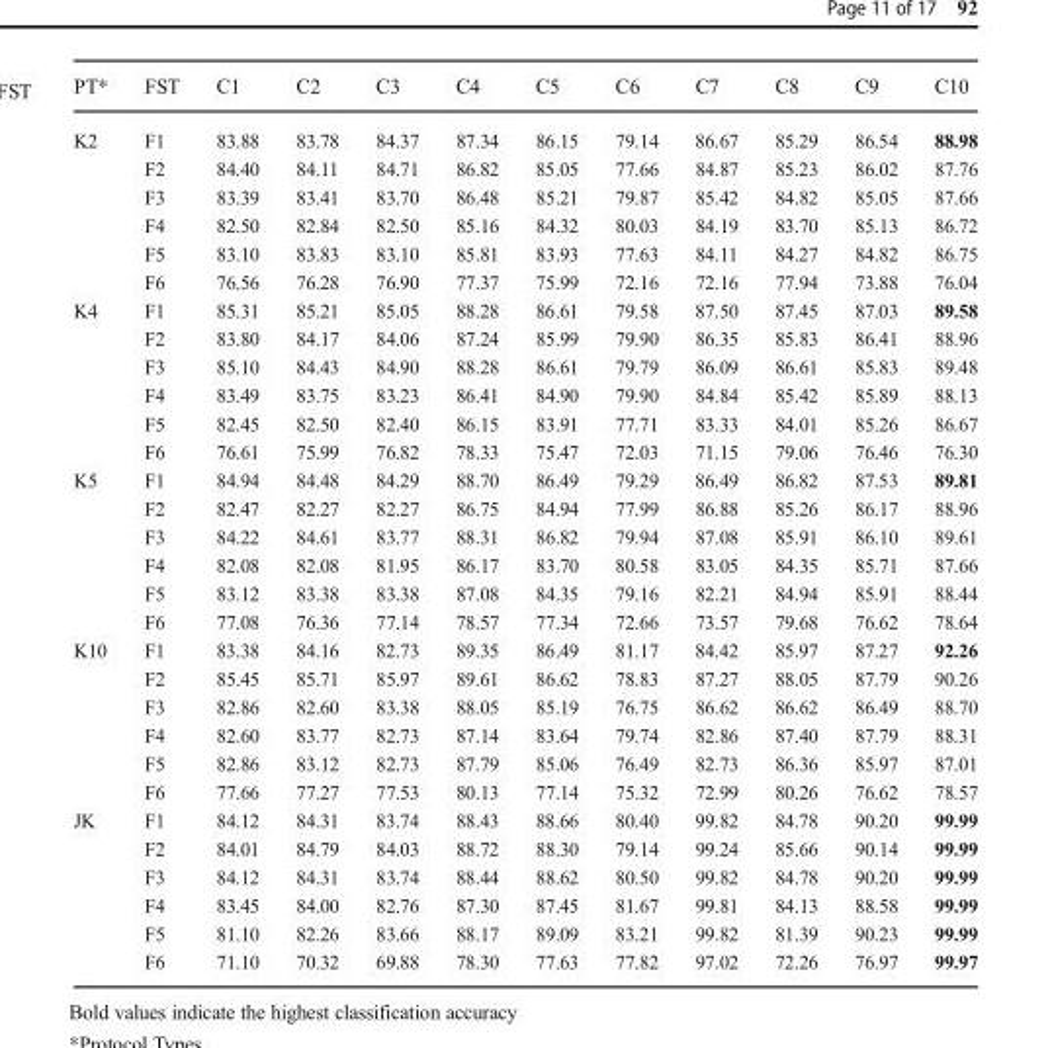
<table><thead><tr><td>PT*</td><td>FST</td><td>C1</td><td>C2</td><td>C3</td><td>C4</td><td>C5</td><td>C6</td><td>C7</td><td>C8</td><td>C9</td><td>C10</td></tr></thead><tbody><tr><td rowspan="6">K2</td><td>F1</td><td>83.88</td><td>83.78</td><td>84.37</td><td>87.34</td><td>86.15</td><td>79.14</td><td>86.67</td><td>85.29</td><td>86.54</td><td>88.98</td></tr><tr><td>F2</td><td>84.40</td><td>84.11</td><td>84.71</td><td>86.82</td><td>85.05</td><td>77.66</td><td>84.87</td><td>85.23</td><td>86.02</td><td>87.76</td></tr><tr><td>F3</td><td>83.39</td><td>83.41</td><td>83.70</td><td>86.48</td><td>85.21</td><td>79.87</td><td>85.42</td><td>84.82</td><td>85.05</td><td>87.66</td></tr><tr><td>F4</td><td>82.50</td><td>82.84</td><td>82.50</td><td>85.16</td><td>84.32</td><td>80.03</td><td>84.19</td><td>83.70</td><td>85.13</td><td>86.72</td></tr><tr><td>F5</td><td>83.10</td><td>83.83</td><td>83.10</td><td>85.81</td><td>83.93</td><td>77.63</td><td>84.11</td><td>84.27</td><td>84.82</td><td>86.75</td></tr><tr><td>F6</td><td>76.56</td><td>76.28</td><td>76.90</td><td>77.37</td><td>75.99</td><td>72.16</td><td>72.16</td><td>77.94</td><td>73.88</td><td>76.04</td></tr><tr><td rowspan="6">K4</td><td>F1</td><td>85.31</td><td>85.21</td><td>85.05</td><td>88.28</td><td>86.61</td><td>79.58</td><td>87.50</td><td>87.45</td><td>87.03</td><td>89.58</td></tr><tr><td>F2</td><td>83.80</td><td>84.17</td><td>84.06</td><td>87.24</td><td>85.99</td><td>79.90</td><td>86.35</td><td>85.83</td><td>86.41</td><td>88.96</td></tr><tr><td>F3</td><td>85.10</td><td>84.43</td><td>84.90</td><td>88.28</td><td>86.61</td><td>79.79</td><td>86.09</td><td>86.61</td><td>85.83</td><td>89.48</td></tr><tr><td>F4</td><td>83.49</td><td>83.75</td><td>83.23</td><td>86.41</td><td>84.90</td><td>79.90</td><td>84.84</td><td>85.42</td><td>85.89</td><td>88.13</td></tr><tr><td>F5</td><td>82.45</td><td>82.50</td><td>82.40</td><td>86.15</td><td>83.91</td><td>77.71</td><td>83.33</td><td>84.01</td><td>85.26</td><td>86.67</td></tr><tr><td>F6</td><td>76.61</td><td>75.99</td><td>76.82</td><td>78.33</td><td>75.47</td><td>72.03</td><td>71.15</td><td>79.06</td><td>76.46</td><td>76.30</td></tr><tr><td rowspan="6">K5</td><td>F1</td><td>84.94</td><td>84.48</td><td>84.29</td><td>88.70</td><td>86.49</td><td>79.29</td><td>86.49</td><td>86.82</td><td>87.53</td><td>89.81</td></tr><tr><td>F2</td><td>82.47</td><td>82.27</td><td>82.27</td><td>86.75</td><td>84.94</td><td>77.99</td><td>86.88</td><td>85.26</td><td>86.17</td><td>88.96</td></tr><tr><td>F3</td><td>84.22</td><td>84.61</td><td>83.77</td><td>88.31</td><td>86.82</td><td>79.94</td><td>87.08</td><td>85.91</td><td>86.10</td><td>89.61</td></tr><tr><td>F4</td><td>82.08</td><td>82.08</td><td>81.95</td><td>86.17</td><td>83.70</td><td>80.58</td><td>83.05</td><td>84.35</td><td>85.71</td><td>87.66</td></tr><tr><td>F5</td><td>83.12</td><td>83.38</td><td>83.38</td><td>87.08</td><td>84.35</td><td>79.16</td><td>82.21</td><td>84.94</td><td>85.91</td><td>88.44</td></tr><tr><td>F6</td><td>77.08</td><td>76.36</td><td>77.14</td><td>78.57</td><td>77.34</td><td>72.66</td><td>73.57</td><td>79.68</td><td>76.62</td><td>78.64</td></tr><tr><td rowspan="6">K10</td><td>F1</td><td>83.38</td><td>84.16</td><td>82.73</td><td>89.35</td><td>86.49</td><td>81.17</td><td>84.42</td><td>85.97</td><td>87.27</td><td>92.26</td></tr><tr><td>F2</td><td>85.45</td><td>85.71</td><td>85.97</td><td>89.61</td><td>86.62</td><td>78.83</td><td>87.27</td><td>88.05</td><td>87.79</td><td>90.26</td></tr><tr><td>F3</td><td>82.86</td><td>82.60</td><td>83.38</td><td>88.05</td><td>85.19</td><td>76.75</td><td>86.62</td><td>86.62</td><td>86.49</td><td>88.70</td></tr><tr><td>F4</td><td>82.60</td><td>83.77</td><td>82.73</td><td>87.14</td><td>83.64</td><td>79.74</td><td>82.86</td><td>87.40</td><td>87.79</td><td>88.31</td></tr><tr><td>F5</td><td>82.86</td><td>83.12</td><td>82.73</td><td>87.79</td><td>85.06</td><td>76.49</td><td>82.73</td><td>86.36</td><td>85.97</td><td>87.01</td></tr><tr><td>F6</td><td>77.66</td><td>77.27</td><td>77.53</td><td>80.13</td><td>77.14</td><td>75.32</td><td>72.99</td><td>80.26</td><td>76.62</td><td>78.57</td></tr><tr><td rowspan="6">JK</td><td>F1</td><td>84.12</td><td>84.31</td><td>83.74</td><td>88.43</td><td>88.66</td><td>80.40</td><td>99.82</td><td>84.78</td><td>90.20</td><td>99.99</td></tr><tr><td>F2</td><td>84.01</td><td>84.79</td><td>84.03</td><td>88.72</td><td>88.30</td><td>79.14</td><td>99.24</td><td>85.66</td><td>90.14</td><td>99.99</td></tr><tr><td>F3</td><td>84.12</td><td>84.31</td><td>83.74</td><td>88.44</td><td>88.62</td><td>80.50</td><td>99.82</td><td>84.78</td><td>90.20</td><td>99.99</td></tr><tr><td>F4</td><td>83.45</td><td>84.00</td><td>82.76</td><td>87.30</td><td>87.45</td><td>81.67</td><td>99.81</td><td>84.13</td><td>88.58</td><td>99.99</td></tr><tr><td>F5</td><td>81.10</td><td>82.26</td><td>83.66</td><td>88.17</td><td>89.09</td><td>83.21</td><td>99.82</td><td>81.39</td><td>90.23</td><td>99.99</td></tr><tr><td>F6</td><td>71.10</td><td>70.32</td><td>69.88</td><td>78.30</td><td>77.63</td><td>77.82</td><td>97.02</td><td>72.26</td><td>76.97</td><td>99.97</td></tr></tbody></table>